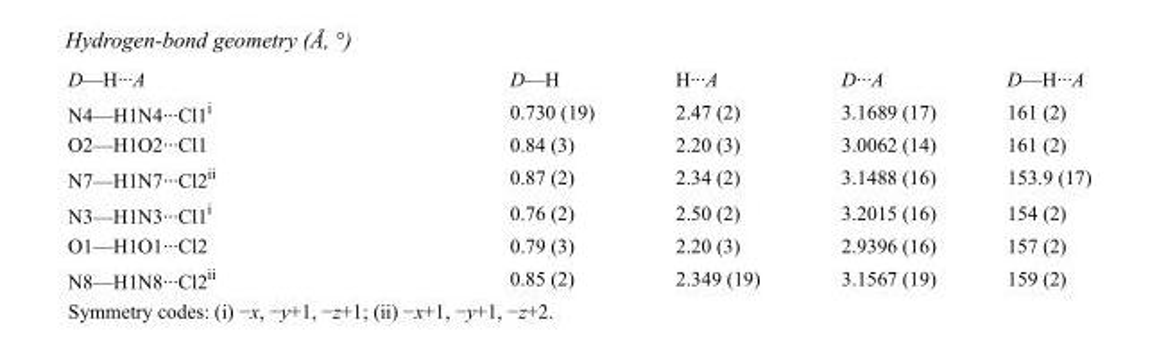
<table><tbody><tr><td>D—H···A</td><td>D—H</td><td>H···A</td><td>D···A</td><td>D—H···A</td></tr><tr><td>N4—H1N4···Cl1<sup>i</sup></td><td>0.730 (19)</td><td>2.47 (2)</td><td>3.1689 (17)</td><td>161 (2)</td></tr><tr><td>O2—H1O2···Cl1</td><td>0.84 (3)</td><td>2.20 (3)</td><td>3.0062 (14)</td><td>161 (2)</td></tr><tr><td>N7—H1N7···Cl2<sup>ii</sup></td><td>0.87 (2)</td><td>2.34 (2)</td><td>3.1488 (16)</td><td>153.9 (17)</td></tr><tr><td>N3—H1N3···Cl1<sup>i</sup></td><td>0.76 (2)</td><td>2.50 (2)</td><td>3.2015 (16)</td><td>154 (2)</td></tr><tr><td>O1—H1O1···Cl2</td><td>0.79 (3)</td><td>2.20 (3)</td><td>2.9396 (16)</td><td>157 (2)</td></tr><tr><td>N8—H1N8···Cl2<sup>ii</sup></td><td>0.85 (2)</td><td>2.349 (19)</td><td>3.1567 (19)</td><td>159 (2)</td></tr></tbody></table>